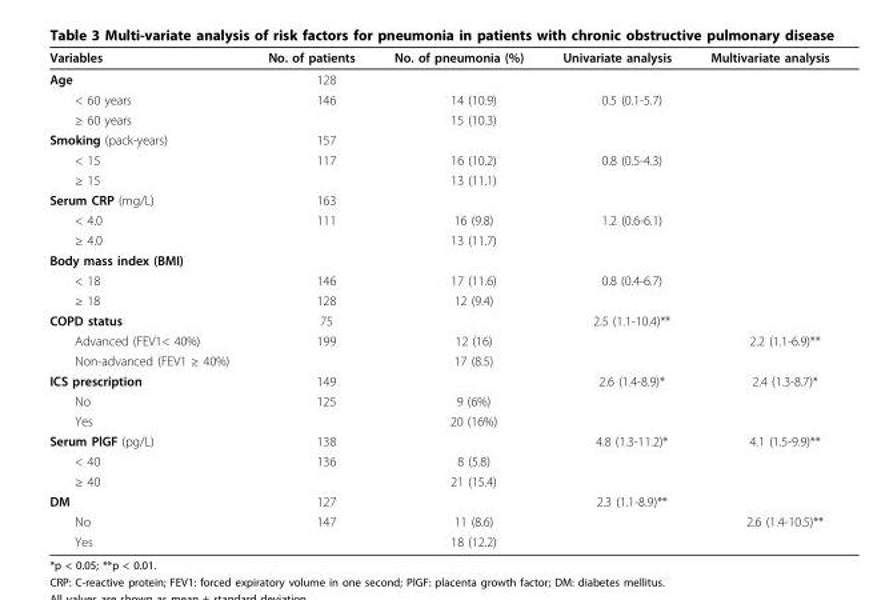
<table><thead><tr><td>Variables</td><td>No. of patients</td><td>No. of pneumonia (%)</td><td>Univariate analysis</td><td>Multivariate analysis</td></tr></thead><tbody><tr><td>Age</td><td>128</td><td></td><td></td><td></td></tr><tr><td>&lt; 60 years</td><td>146</td><td>14 (10.9)</td><td>0.5 (0.1-5.7)</td><td></td></tr><tr><td>≥ 60 years</td><td></td><td>15 (10.3)</td><td></td><td></td></tr><tr><td>Smoking (pack-years)</td><td>157</td><td></td><td></td><td></td></tr><tr><td>&lt; 15</td><td>117</td><td>16 (10.2)</td><td>0.8 (0.5-4.3)</td><td></td></tr><tr><td>≥ 15</td><td></td><td>13 (11.1)</td><td></td><td></td></tr><tr><td>Serum CRP (mg/L)</td><td>163</td><td></td><td></td><td></td></tr><tr><td>&lt; 4.0</td><td>111</td><td>16 (9.8)</td><td>1.2 (0.6-6.1)</td><td></td></tr><tr><td>≥ 4.0</td><td></td><td>13 (11.7)</td><td></td><td></td></tr><tr><td colspan="5">Body mass index (BMI)</td></tr><tr><td>&lt; 18</td><td>146</td><td>17 (11.6)</td><td>0.8 (0.4-6.7)</td><td></td></tr><tr><td>≥ 18</td><td>128</td><td>12 (9.4)</td><td></td><td></td></tr><tr><td>COPD status</td><td>75</td><td></td><td>2.5 (1.1-10.4)**</td><td></td></tr><tr><td>Advanced (FEV1&lt; 40%)</td><td>199</td><td>12 (16)</td><td></td><td>2.2 (1.1-6.9)**</td></tr><tr><td>Non-advanced (FEV1 ≥ 40%)</td><td></td><td>17 (8.5)</td><td></td><td></td></tr><tr><td>ICS prescription</td><td>149</td><td></td><td>2.6 (1.4-8.9)*</td><td>2.4 (1.3-8.7)*</td></tr><tr><td>No</td><td>125</td><td>9 (6%)</td><td></td><td></td></tr><tr><td>Yes</td><td></td><td>20 (16%)</td><td></td><td></td></tr><tr><td>Serum PlGF (pg/L)</td><td>138</td><td></td><td>4.8 (1.3-11.2)*</td><td>4.1 (1.5-9.9)**</td></tr><tr><td>&lt; 40</td><td>136</td><td>8 (5.8)</td><td></td><td></td></tr><tr><td>≥ 40</td><td></td><td>21 (15.4)</td><td></td><td></td></tr><tr><td>DM</td><td>127</td><td></td><td>2.3 (1.1-8.9)**</td><td></td></tr><tr><td>No</td><td>147</td><td>11 (8.6)</td><td></td><td>2.6 (1.4-10.5)**</td></tr><tr><td>Yes</td><td></td><td>18 (12.2)</td><td></td><td></td></tr></tbody></table>